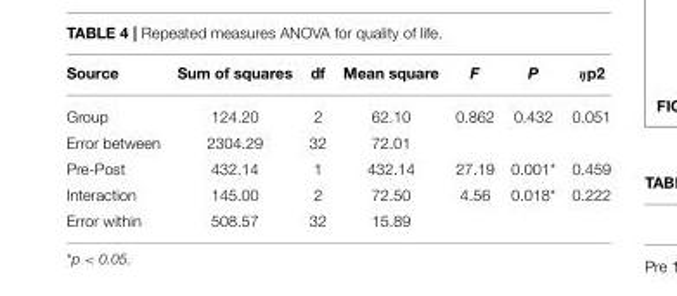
<table><thead><tr><td>Source</td><td>Sum of squares</td><td>df</td><td>Mean square</td><td>F</td><td>P</td><td>ηp2</td></tr></thead><tbody><tr><td>Group</td><td>124.20</td><td>2</td><td>62.10</td><td>0.862</td><td>0.432</td><td>0.051</td></tr><tr><td>Error between</td><td>2304.29</td><td>32</td><td>72.01</td><td></td><td></td><td></td></tr><tr><td>Pre-Post</td><td>432.14</td><td>1</td><td>432.14</td><td>27.19</td><td>0.001*</td><td>0.459</td></tr><tr><td>Interaction</td><td>145.00</td><td>2</td><td>72.50</td><td>4.56</td><td>0.018*</td><td>0.222</td></tr><tr><td>Error within</td><td>508.57</td><td>32</td><td>15.89</td><td></td><td></td><td></td></tr></tbody></table>